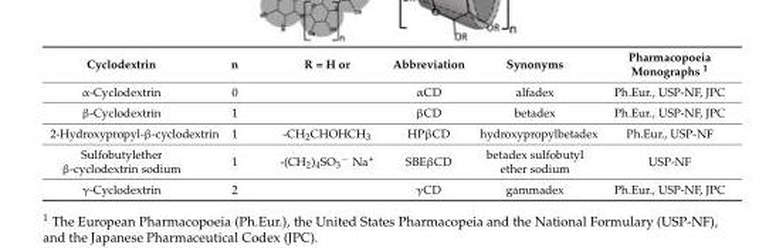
<table><thead><tr><td>Cyclodextrin</td><td>n</td><td>R = H or</td><td>Abbreviation</td><td>Synonyms</td><td>Pharmacopoeia Monographs <sup>1</sup></td></tr></thead><tbody><tr><td>α-Cyclodextrin</td><td>0</td><td></td><td>αCD</td><td>alfadex</td><td>Ph.Eur., USP-NF, JPC</td></tr><tr><td>β-Cyclodextrin</td><td>1</td><td></td><td>βCD</td><td>betadex</td><td>Ph.Eur., USP-NF, JPC</td></tr><tr><td>2-Hydroxypropyl-β-cyclodextrin</td><td>1</td><td>-CH<sub>2</sub>CHOHCH<sub>3</sub></td><td>HPβCD</td><td>hydroxypropylbetadex</td><td>Ph.Eur., USP-NF</td></tr><tr><td>Sulfobutylether β-cyclodextrin sodium</td><td>1</td><td>-(CH<sub>2</sub>)<sub>4</sub>SO<sub>3</sub><sup>−</sup> Na<sup>+</sup></td><td>SBEβCD</td><td>betadex sulfobutyl ether sodium</td><td>USP-NF</td></tr><tr><td>γ-Cyclodextrin</td><td>2</td><td></td><td>γCD</td><td>gammadex</td><td>Ph.Eur., USP-NF, JPC</td></tr></tbody></table>